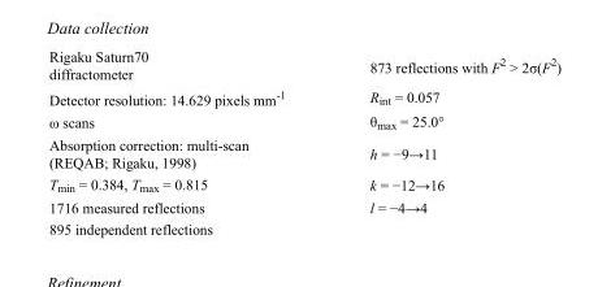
<table><tbody><tr><td>Rigaku Saturn70 diffractometer</td><td>873 reflections with F<sup>2</sup> &gt; 2σ(F<sup>2</sup>)</td></tr><tr><td>Detector resolution: 14.629 pixels mm<sup>-1</sup></td><td>R<sub>int</sub> = 0.057</td></tr><tr><td>ω scans</td><td>θ<sub>max</sub> = 25.0°</td></tr><tr><td>Absorption correction: multi-scan (REQAB; Rigaku, 1998)</td><td>h = −9→11</td></tr><tr><td>T<sub>min</sub> = 0.384, T<sub>max</sub> = 0.815</td><td>k = −12→16</td></tr><tr><td>1716 measured reflections</td><td>l = −4→4</td></tr><tr><td>895 independent reflections</td><td></td></tr></tbody></table>